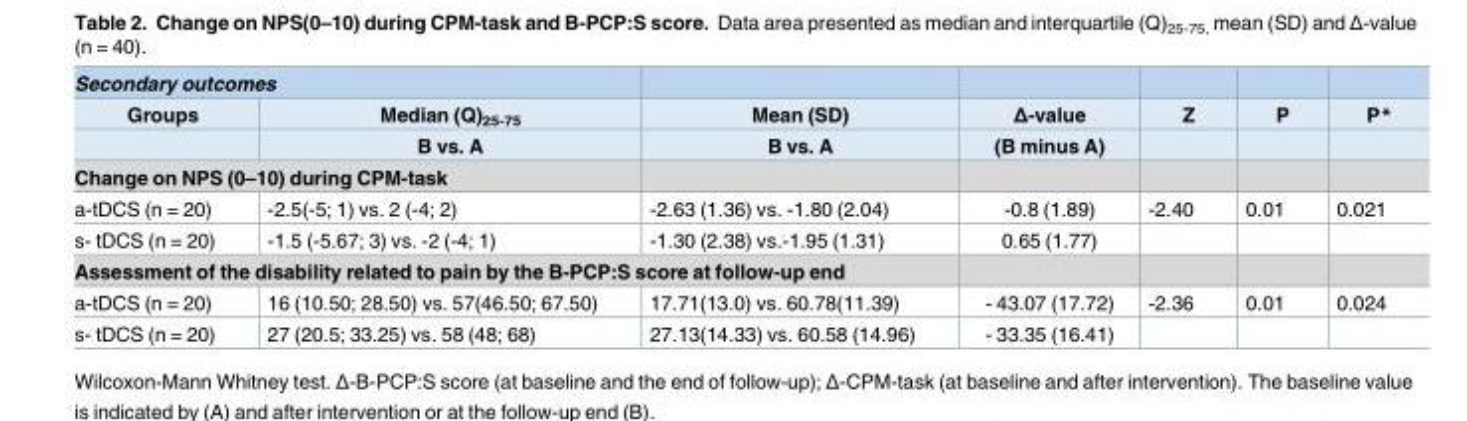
<table><thead><tr><td colspan="2">Secondary outcomes</td><td rowspan="3">Mean (SD) B vs. A</td><td rowspan="3">Δ-value (B minus A)</td><td rowspan="3">Z</td><td rowspan="3">P</td><td rowspan="3">P*</td></tr><tr><td rowspan="2">Groups</td><td rowspan="2">Median (Q)<sub>25-75</sub> B vs. A</td></tr><tr></tr></thead><tbody><tr><td colspan="7">Change on NPS (0–10) during CPM-task</td></tr><tr><td>a-tDCS (n = 20)</td><td>-2.5(-5; 1) vs. 2 (-4; 2)</td><td>-2.63 (1.36) vs. -1.80 (2.04)</td><td>-0.8 (1.89)</td><td>-2.40</td><td>0.01</td><td>0.021</td></tr><tr><td>s- tDCS (n = 20)</td><td>-1.5 (-5.67; 3) vs. -2 (-4; 1)</td><td>-1.30 (2.38) vs.-1.95 (1.31)</td><td>0.65 (1.77)</td><td></td><td></td><td></td></tr><tr><td colspan="7">Assessment of the disability related to pain by the B-PCP:S score at follow-up end</td></tr><tr><td>a-tDCS (n = 20)</td><td>16 (10.50; 28.50) vs. 57(46.50; 67.50)</td><td>17.71(13.0) vs. 60.78(11.39)</td><td>- 43.07 (17.72)</td><td>-2.36</td><td>0.01</td><td>0.024</td></tr><tr><td>s- tDCS (n = 20)</td><td>27 (20.5; 33.25) vs. 58 (48; 68)</td><td>27.13(14.33) vs. 60.58 (14.96)</td><td>- 33.35 (16.41)</td><td></td><td></td><td></td></tr></tbody></table>